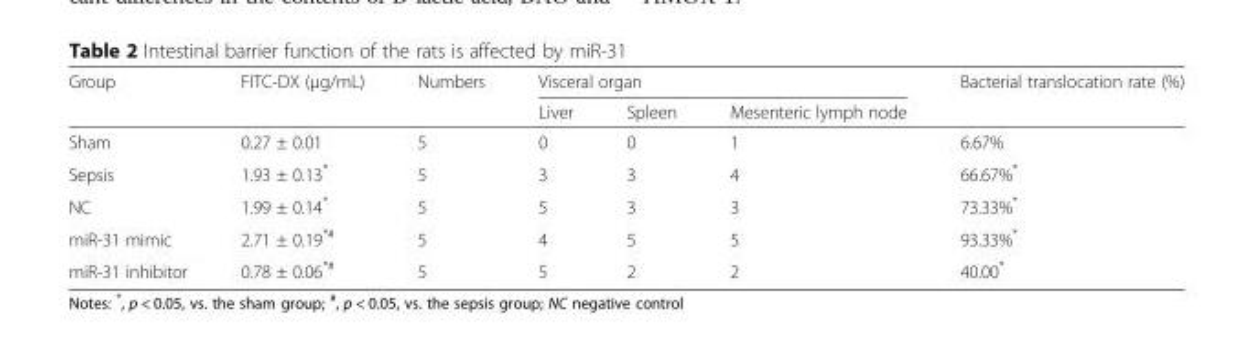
<table><thead><tr><td rowspan="2">Group</td><td rowspan="2">FITC-DX (μg/mL)</td><td rowspan="2">Numbers</td><td colspan="3">Visceral organ</td><td rowspan="2">Bacterial translocation rate (%)</td></tr><tr><td>Liver</td><td>Spleen</td><td>Mesenteric lymph node</td></tr></thead><tbody><tr><td>Sham</td><td>0.27 ± 0.01</td><td>5</td><td>0</td><td>0</td><td>1</td><td>6.67%</td></tr><tr><td>Sepsis</td><td>1.93 ± 0.13*</td><td>5</td><td>3</td><td>3</td><td>4</td><td>66.67%*</td></tr><tr><td>NC</td><td>1.99 ± 0.14*</td><td>5</td><td>5</td><td>3</td><td>3</td><td>73.33%*</td></tr><tr><td>miR-31 mimic</td><td>2.71 ± 0.19<sup>*#</sup></td><td>5</td><td>4</td><td>5</td><td>5</td><td>93.33%*</td></tr><tr><td>miR-31 inhibitor</td><td>0.78 ± 0.06<sup>*#</sup></td><td>5</td><td>5</td><td>2</td><td>2</td><td>40.00*</td></tr></tbody></table>